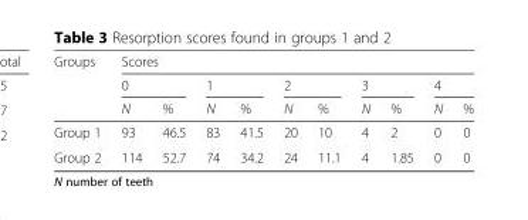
<table><thead><tr><td rowspan="3">Groups</td><td colspan="10">Scores</td></tr><tr><td colspan="2">0</td><td colspan="2">1</td><td colspan="2">2</td><td colspan="2">3</td><td colspan="2">4</td></tr><tr><td>N</td><td>%</td><td>N</td><td>%</td><td>N</td><td>%</td><td>N</td><td>%</td><td>N</td><td>%</td></tr></thead><tbody><tr><td>Group 1</td><td>93</td><td>46.5</td><td>83</td><td>41.5</td><td>20</td><td>10</td><td>4</td><td>2</td><td>0</td><td>0</td></tr><tr><td>Group 2</td><td>114</td><td>52.7</td><td>74</td><td>34.2</td><td>24</td><td>11.1</td><td>4</td><td>1.85</td><td>0</td><td>0</td></tr></tbody></table>